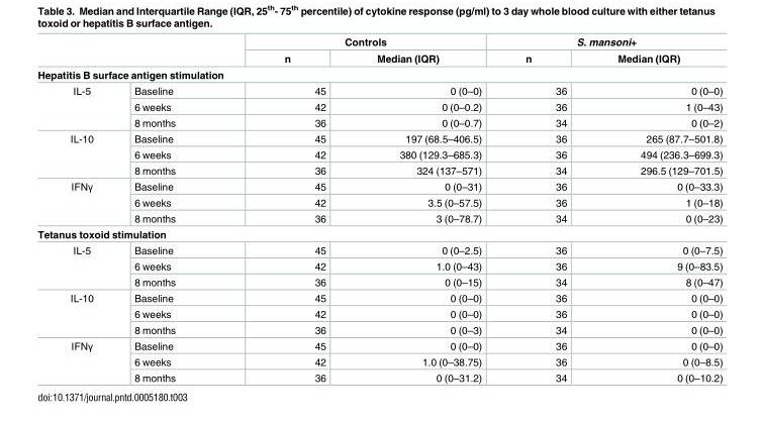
<table><thead><tr><td rowspan="2"></td><td rowspan="2"></td><td colspan="2">Controls</td><td colspan="2">S. mansoni+</td></tr><tr><td>n</td><td>Median (IQR)</td><td>n</td><td>Median (IQR)</td></tr></thead><tbody><tr><td colspan="6">Hepatitis B surface antigen stimulation</td></tr><tr><td rowspan="3">IL-5</td><td>Baseline</td><td>45</td><td>0 (0–0)</td><td>36</td><td>0 (0–0)</td></tr><tr><td>6 weeks</td><td>42</td><td>0 (0–0.2)</td><td>36</td><td>1 (0–43)</td></tr><tr><td>8 months</td><td>36</td><td>0 (0–0.7)</td><td>34</td><td>0 (0–2)</td></tr><tr><td rowspan="3">IL-10</td><td>Baseline</td><td>45</td><td>197 (68.5–406.5)</td><td>36</td><td>265 (87.7–501.8)</td></tr><tr><td>6 weeks</td><td>42</td><td>380 (129.3–685.3)</td><td>36</td><td>494 (236.3–699.3)</td></tr><tr><td>8 months</td><td>36</td><td>324 (137–571)</td><td>34</td><td>296.5 (129–701.5)</td></tr><tr><td rowspan="3">IFNγ</td><td>Baseline</td><td>45</td><td>0 (0–31)</td><td>36</td><td>0 (0–33.3)</td></tr><tr><td>6 weeks</td><td>42</td><td>3.5 (0–57.5)</td><td>36</td><td>1 (0–18)</td></tr><tr><td>8 months</td><td>36</td><td>3 (0–78.7)</td><td>34</td><td>0 (0–23)</td></tr><tr><td colspan="6">Tetanus toxoid stimulation</td></tr><tr><td rowspan="3">IL-5</td><td>Baseline</td><td>45</td><td>0 (0–2.5)</td><td>36</td><td>0 (0–7.5)</td></tr><tr><td>6 weeks</td><td>42</td><td>1.0 (0–43)</td><td>36</td><td>9 (0–83.5)</td></tr><tr><td>8 months</td><td>36</td><td>0 (0–15)</td><td>34</td><td>8 (0–47)</td></tr><tr><td rowspan="3">IL-10</td><td>Baseline</td><td>45</td><td>0 (0–0)</td><td>36</td><td>0 (0–0)</td></tr><tr><td>6 weeks</td><td>42</td><td>0 (0–0)</td><td>36</td><td>0 (0–0)</td></tr><tr><td>8 months</td><td>36</td><td>0 (0–3)</td><td>34</td><td>0 (0–0)</td></tr><tr><td rowspan="3">IFNγ</td><td>Baseline</td><td>45</td><td>0 (0–0)</td><td>36</td><td>0 (0–0)</td></tr><tr><td>6 weeks</td><td>42</td><td>1.0 (0–38.75)</td><td>36</td><td>0 (0–8.5)</td></tr><tr><td>8 months</td><td>36</td><td>0 (0–31.2)</td><td>34</td><td>0 (0–10.2)</td></tr></tbody></table>